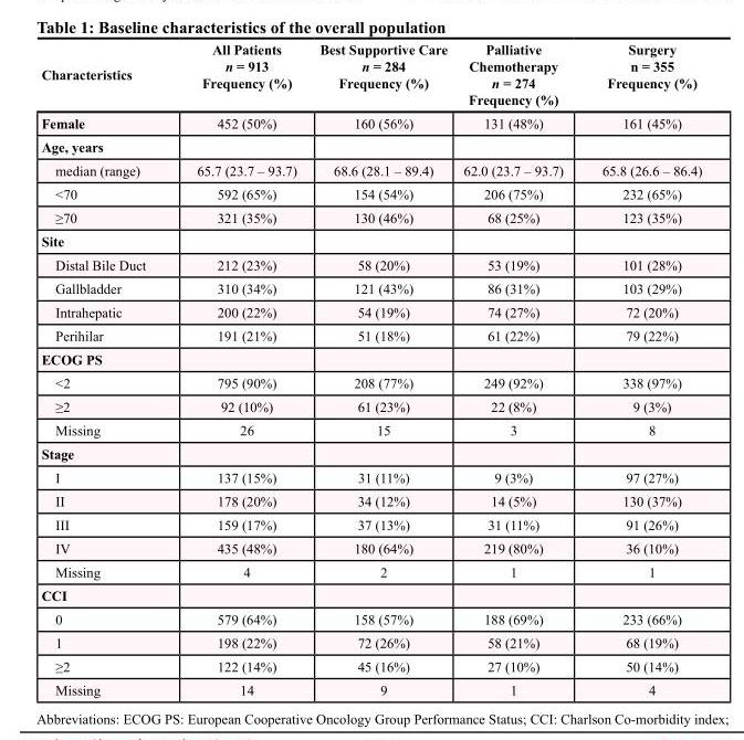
<table><thead><tr><td>Characteristics</td><td>All Patients n = 913 Frequency (%)</td><td>Best Supportive Care n = 284 Frequency (%)</td><td>Palliative Chemotherapy n = 274 Frequency (%)</td><td>Surgery n = 355 Frequency (%)</td></tr></thead><tbody><tr><td>Female</td><td>452 (50%)</td><td>160 (56%)</td><td>131 (48%)</td><td>161 (45%)</td></tr><tr><td colspan="5">Age, years</td></tr><tr><td>median (range)</td><td>65.7 (23.7 – 93.7)</td><td>68.6 (28.1 – 89.4)</td><td>62.0 (23.7 – 93.7)</td><td>65.8 (26.6 – 86.4)</td></tr><tr><td>&lt;70</td><td>592 (65%)</td><td>154 (54%)</td><td>206 (75%)</td><td>232 (65%)</td></tr><tr><td>≥70</td><td>321 (35%)</td><td>130 (46%)</td><td>68 (25%)</td><td>123 (35%)</td></tr><tr><td colspan="5">Site</td></tr><tr><td>Distal Bile Duct</td><td>212 (23%)</td><td>58 (20%)</td><td>53 (19%)</td><td>101 (28%)</td></tr><tr><td>Gallbladder</td><td>310 (34%)</td><td>121 (43%)</td><td>86 (31%)</td><td>103 (29%)</td></tr><tr><td>Intrahepatic</td><td>200 (22%)</td><td>54 (19%)</td><td>74 (27%)</td><td>72 (20%)</td></tr><tr><td>Perihilar</td><td>191 (21%)</td><td>51 (18%)</td><td>61 (22%)</td><td>79 (22%)</td></tr><tr><td colspan="5">ECOG PS</td></tr><tr><td>&lt;2</td><td>795 (90%)</td><td>208 (77%)</td><td>249 (92%)</td><td>338 (97%)</td></tr><tr><td>≥2</td><td>92 (10%)</td><td>61 (23%)</td><td>22 (8%)</td><td>9 (3%)</td></tr><tr><td>Missing</td><td>26</td><td>15</td><td>3</td><td>8</td></tr><tr><td colspan="5">Stage</td></tr><tr><td>I</td><td>137 (15%)</td><td>31 (11%)</td><td>9 (3%)</td><td>97 (27%)</td></tr><tr><td>II</td><td>178 (20%)</td><td>34 (12%)</td><td>14 (5%)</td><td>130 (37%)</td></tr><tr><td>III</td><td>159 (17%)</td><td>37 (13%)</td><td>31 (11%)</td><td>91 (26%)</td></tr><tr><td>IV</td><td>435 (48%)</td><td>180 (64%)</td><td>219 (80%)</td><td>36 (10%)</td></tr><tr><td>Missing</td><td>4</td><td>2</td><td>1</td><td>1</td></tr><tr><td colspan="5">CCI</td></tr><tr><td>0</td><td>579 (64%)</td><td>158 (57%)</td><td>188 (69%)</td><td>233 (66%)</td></tr><tr><td>1</td><td>198 (22%)</td><td>72 (26%)</td><td>58 (21%)</td><td>68 (19%)</td></tr><tr><td>≥2</td><td>122 (14%)</td><td>45 (16%)</td><td>27 (10%)</td><td>50 (14%)</td></tr><tr><td>Missing</td><td>14</td><td>9</td><td>1</td><td>4</td></tr></tbody></table>